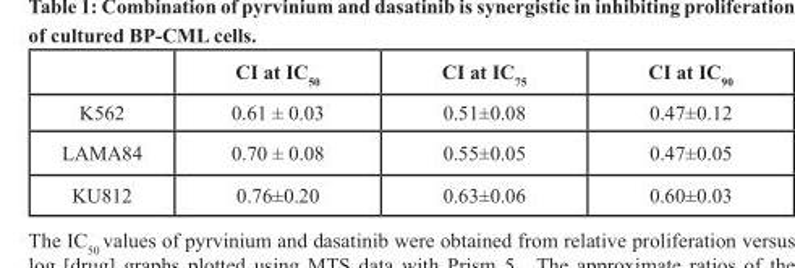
<table><thead><tr><td></td><td>CI at IC<sub>50</sub></td><td>CI at IC<sub>75</sub></td><td>CI at IC<sub>90</sub></td></tr></thead><tbody><tr><td>K562</td><td>0.61 ± 0.03</td><td>0.51±0.08</td><td>0.47±0.12</td></tr><tr><td>LAMA84</td><td>0.70 ± 0.08</td><td>0.55±0.05</td><td>0.47±0.05</td></tr><tr><td>KU812</td><td>0.76±0.20</td><td>0.63±0.06</td><td>0.60±0.03</td></tr></tbody></table>